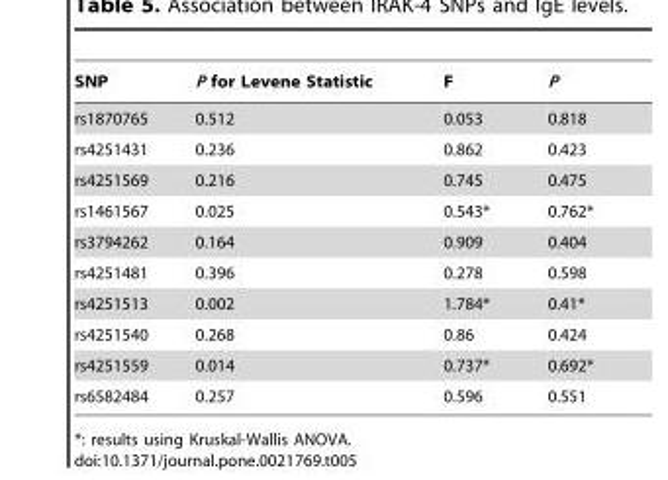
<table><thead><tr><td>SNP</td><td>P for Levene Statistic</td><td>F</td><td>P</td></tr></thead><tbody><tr><td>rs1870765</td><td>0.512</td><td>0.053</td><td>0.818</td></tr><tr><td>rs4251431</td><td>0.236</td><td>0.862</td><td>0.423</td></tr><tr><td>rs4251569</td><td>0.216</td><td>0.745</td><td>0.475</td></tr><tr><td>rs1461567</td><td>0.025</td><td>0.543*</td><td>0.762*</td></tr><tr><td>rs3794262</td><td>0.164</td><td>0.909</td><td>0.404</td></tr><tr><td>rs4251481</td><td>0.396</td><td>0.278</td><td>0.598</td></tr><tr><td>rs4251513</td><td>0.002</td><td>1.784*</td><td>0.41*</td></tr><tr><td>rs4251540</td><td>0.268</td><td>0.86</td><td>0.424</td></tr><tr><td>rs4251559</td><td>0.014</td><td>0.737*</td><td>0.692*</td></tr><tr><td>rs6582484</td><td>0.257</td><td>0.596</td><td>0.551</td></tr></tbody></table>